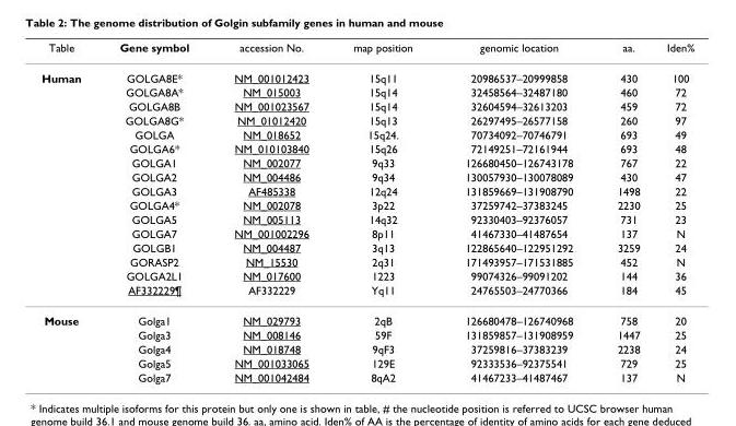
<table><thead><tr><td>Table</td><td>Gene symbol</td><td>accession No.</td><td>map position</td><td>genomic location</td><td>aa.</td><td>Iden%</td></tr></thead><tbody><tr><td rowspan="16">Human</td><td>GOLGA8E*</td><td>NM_001012423</td><td>15q11</td><td>20986537–20999858</td><td>430</td><td>100</td></tr><tr><td>GOLGA8A*</td><td>NM_015003</td><td>15q14</td><td>32458564–32487180</td><td>460</td><td>72</td></tr><tr><td>GOLGA8B</td><td>NM_001023567</td><td>15q14</td><td>32604594–32613203</td><td>459</td><td>72</td></tr><tr><td>GOLGA8G*</td><td>NM_01012420</td><td>15q13</td><td>26297495–26577158</td><td>260</td><td>97</td></tr><tr><td>GOLGA</td><td>NM_018652</td><td>15q24.</td><td>70734092–70746791</td><td>693</td><td>49</td></tr><tr><td>GOLGA6*</td><td>NM_010103840</td><td>15q26</td><td>72149251–72161944</td><td>693</td><td>48</td></tr><tr><td>GOLGA1</td><td>NM_002077</td><td>9q33</td><td>126680450–126743178</td><td>767</td><td>22</td></tr><tr><td>GOLGA2</td><td>NM_004486</td><td>9q34</td><td>130057930–130078089</td><td>430</td><td>47</td></tr><tr><td>GOLGA3</td><td>AF485338</td><td>12q24</td><td>131859669–131908790</td><td>1498</td><td>22</td></tr><tr><td>GOLGA4*</td><td>NM_002078</td><td>3p22</td><td>37259742–37383245</td><td>2230</td><td>25</td></tr><tr><td>GOLGA5</td><td>NM_005113</td><td>14q32</td><td>92330403–92376057</td><td>731</td><td>23</td></tr><tr><td>GOLGA7</td><td>NM_001002296</td><td>8p11</td><td>41467330–41487654</td><td>137</td><td>N</td></tr><tr><td>GOLGB1</td><td>NM_004487</td><td>3q13</td><td>122865640–122951292</td><td>3259</td><td>24</td></tr><tr><td>GORASP2</td><td>NM_15530</td><td>2q31</td><td>171493957–171531885</td><td>452</td><td>N</td></tr><tr><td>GOLGA2L1</td><td>NM_017600</td><td>1223</td><td>99074326–99091202</td><td>144</td><td>36</td></tr><tr><td>AF332229¶</td><td>AF332229</td><td>Yq11</td><td>24765503–24770366</td><td>184</td><td>45</td></tr><tr><td rowspan="5">Mouse</td><td>Golga1</td><td>NM_029793</td><td>2qB</td><td>126680478–126740968</td><td>758</td><td>20</td></tr><tr><td>Golga3</td><td>NM_008146</td><td>59F</td><td>131859857–131908959</td><td>1447</td><td>25</td></tr><tr><td>Golga4</td><td>NM_018748</td><td>9qF3</td><td>37259816–37383239</td><td>2238</td><td>24</td></tr><tr><td>Golga5</td><td>NM_001033065</td><td>129E</td><td>92333536–92375541</td><td>729</td><td>25</td></tr><tr><td>Golga7</td><td>NM_001042484</td><td>8qA2</td><td>41467233–41487467</td><td>137</td><td>N</td></tr></tbody></table>